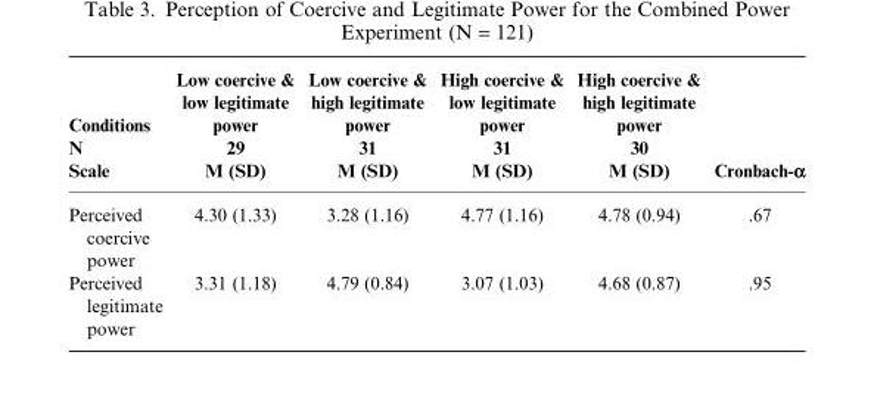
<table><thead><tr><td rowspan="3">Conditions N Scale</td><td rowspan="3">Low coercive &amp; low legitimate power 29 M (SD)</td><td rowspan="3">Low coercive &amp; high legitimate power 31 M (SD)</td><td rowspan="3">High coercive &amp; low legitimate power 31 M (SD)</td><td rowspan="3">High coercive &amp; high legitimate power 30 M (SD)</td><td rowspan="3">Cronbach-α</td></tr><tr></tr><tr></tr></thead><tbody><tr><td>Perceived coercive power</td><td>4.30 (1.33)</td><td>3.28 (1.16)</td><td>4.77 (1.16)</td><td>4.78 (0.94)</td><td>.67</td></tr><tr><td>Perceived legitimate power</td><td>3.31 (1.18)</td><td>4.79 (0.84)</td><td>3.07 (1.03)</td><td>4.68 (0.87)</td><td>.95</td></tr></tbody></table>